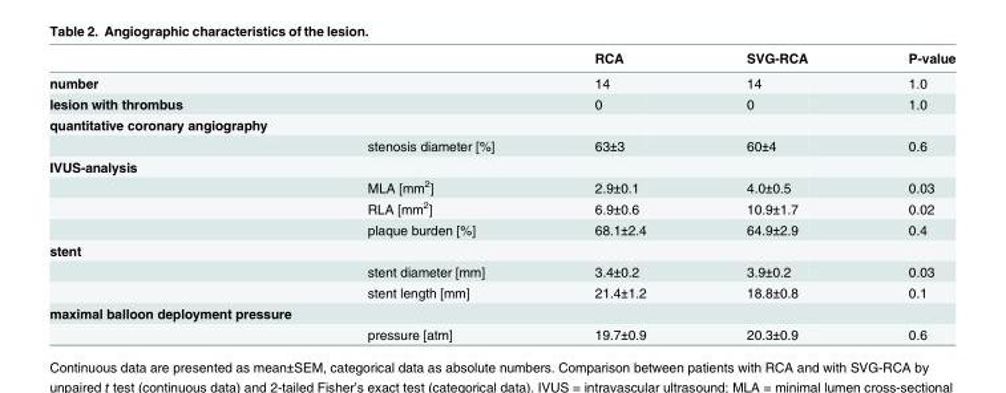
<table><thead><tr><td></td><td></td><td>RCA</td><td>SVG-RCA</td><td>P-value</td></tr></thead><tbody><tr><td>number</td><td></td><td>14</td><td>14</td><td>1.0</td></tr><tr><td>lesion with thrombus</td><td></td><td>0</td><td>0</td><td>1.0</td></tr><tr><td colspan="5">quantitative coronary angiography</td></tr><tr><td></td><td>stenosis diameter [%]</td><td>63±3</td><td>60±4</td><td>0.6</td></tr><tr><td colspan="5">IVUS-analysis</td></tr><tr><td></td><td>MLA [mm<sup>2</sup>]</td><td>2.9±0.1</td><td>4.0±0.5</td><td>0.03</td></tr><tr><td></td><td>RLA [mm<sup>2</sup>]</td><td>6.9±0.6</td><td>10.9±1.7</td><td>0.02</td></tr><tr><td></td><td>plaque burden [%]</td><td>68.1±2.4</td><td>64.9±2.9</td><td>0.4</td></tr><tr><td colspan="5">stent</td></tr><tr><td></td><td>stent diameter [mm]</td><td>3.4±0.2</td><td>3.9±0.2</td><td>0.03</td></tr><tr><td></td><td>stent length [mm]</td><td>21.4±1.2</td><td>18.8±0.8</td><td>0.1</td></tr><tr><td colspan="5">maximal balloon deployment pressure</td></tr><tr><td></td><td>pressure [atm]</td><td>19.7±0.9</td><td>20.3±0.9</td><td>0.6</td></tr></tbody></table>